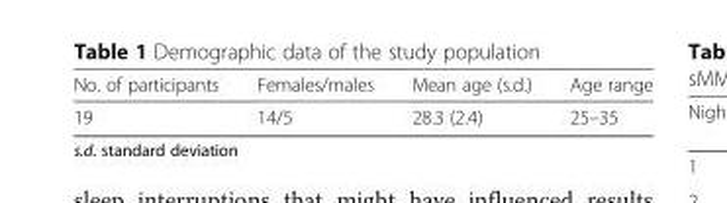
<table><thead><tr><td>No. of participants</td><td>Females/males</td><td>Mean age (s.d.)</td><td>Age range</td></tr></thead><tbody><tr><td>19</td><td>14/5</td><td>28.3 (2.4)</td><td>25–35</td></tr></tbody></table>